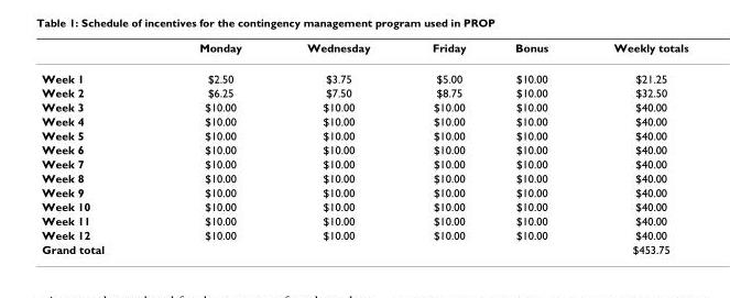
<table><thead><tr><td></td><td>Monday</td><td>Wednesday</td><td>Friday</td><td>Bonus</td><td>Weekly totals</td></tr></thead><tbody><tr><td>Week 1</td><td>$2.50</td><td>$3.75</td><td>$5.00</td><td>$10.00</td><td>$21.25</td></tr><tr><td>Week 2</td><td>$6.25</td><td>$7.50</td><td>$8.75</td><td>$10.00</td><td>$32.50</td></tr><tr><td>Week 3</td><td>$10.00</td><td>$10.00</td><td>$10.00</td><td>$10.00</td><td>$40.00</td></tr><tr><td>Week 4</td><td>$10.00</td><td>$10.00</td><td>$10.00</td><td>$10.00</td><td>$40.00</td></tr><tr><td>Week 5</td><td>$10.00</td><td>$10.00</td><td>$10.00</td><td>$10.00</td><td>$40.00</td></tr><tr><td>Week 6</td><td>$10.00</td><td>$10.00</td><td>$10.00</td><td>$10.00</td><td>$40.00</td></tr><tr><td>Week 7</td><td>$10.00</td><td>$10.00</td><td>$10.00</td><td>$10.00</td><td>$40.00</td></tr><tr><td>Week 8</td><td>$10.00</td><td>$10.00</td><td>$10.00</td><td>$10.00</td><td>$40.00</td></tr><tr><td>Week 9</td><td>$10.00</td><td>$10.00</td><td>$10.00</td><td>$10.00</td><td>$40.00</td></tr><tr><td>Week 10</td><td>$10.00</td><td>$10.00</td><td>$10.00</td><td>$10.00</td><td>$40.00</td></tr><tr><td>Week 11</td><td>$10.00</td><td>$10.00</td><td>$10.00</td><td>$10.00</td><td>$40.00</td></tr><tr><td>Week 12</td><td>$10.00</td><td>$10.00</td><td>$10.00</td><td>$10.00</td><td>$40.00</td></tr><tr><td>Grand total</td><td></td><td></td><td></td><td></td><td>$453.75</td></tr></tbody></table>